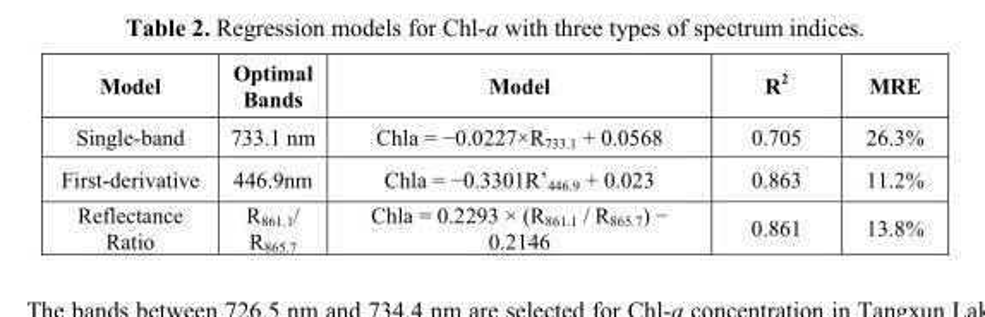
<table><thead><tr><td>Model</td><td>Optimal Bands</td><td>Model</td><td>R<sup>2</sup></td><td>MRE</td></tr></thead><tbody><tr><td>Single-band</td><td>733.1 nm</td><td>Chla = −0.0227×R<sub>733.1</sub> + 0.0568</td><td>0.705</td><td>26.3%</td></tr><tr><td>First-derivative</td><td>446.9nm</td><td>Chla = −0.3301R’<sub>446.9</sub> + 0.023</td><td>0.863</td><td>11.2%</td></tr><tr><td>Reflectance Ratio</td><td>R<sub>861.1</sub>/ R<sub>865.7</sub></td><td>Chla = 0.2293 × (R<sub>861.1</sub> / R<sub>865.7</sub>) − 0.2146</td><td>0.861</td><td>13.8%</td></tr></tbody></table>